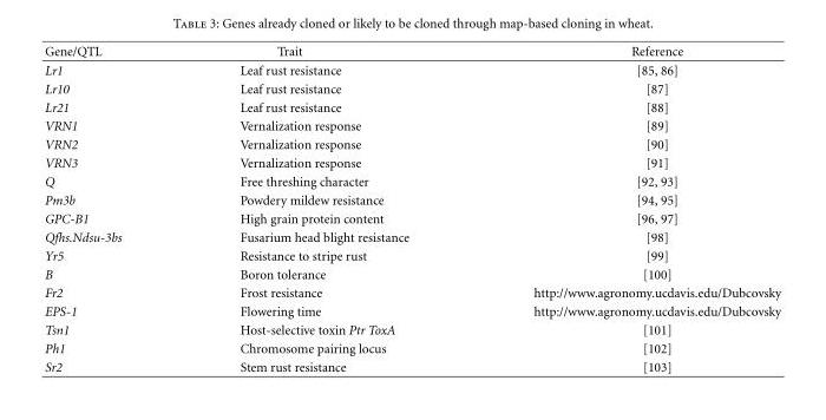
<table><thead><tr><td>Gene/QTL</td><td>Trait</td><td>Reference</td></tr></thead><tbody><tr><td>Lr1</td><td>Leaf rust resistance</td><td>[85, 86]</td></tr><tr><td>Lr10</td><td>Leaf rust resistance</td><td>[87]</td></tr><tr><td>Lr21</td><td>Leaf rust resistance</td><td>[88]</td></tr><tr><td>VRN1</td><td>Vernalization response</td><td>[89]</td></tr><tr><td>VRN2</td><td>Vernalization response</td><td>[90]</td></tr><tr><td>VRN3</td><td>Vernalization response</td><td>[91]</td></tr><tr><td>Q</td><td>Free threshing character</td><td>[92, 93]</td></tr><tr><td>Pm3b</td><td>Powdery mildew resistance</td><td>[94, 95]</td></tr><tr><td>GPC-B1</td><td>High grain protein content</td><td>[96, 97]</td></tr><tr><td>Qfhs.Ndsu-3bs</td><td>Fusarium head blight resistance</td><td>[98]</td></tr><tr><td>Yr5</td><td>Resistance to stripe rust</td><td>[99]</td></tr><tr><td>B</td><td>Boron tolerance</td><td>[100]</td></tr><tr><td>Fr2</td><td>Frost resistance</td><td>http://www.agronomy.ucdavis.edu/Dubcovsky</td></tr><tr><td>EPS-1</td><td>Flowering time</td><td>http://www.agronomy.ucdavis.edu/Dubcovsky</td></tr><tr><td>Tsn1</td><td>Host-selective toxin Ptr ToxA</td><td>[101]</td></tr><tr><td>Ph1</td><td>Chromosome pairing locus</td><td>[102]</td></tr><tr><td>Sr2</td><td>Stem rust resistance</td><td>[103]</td></tr></tbody></table>